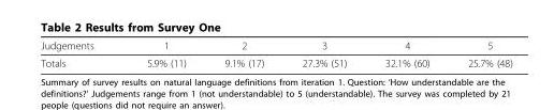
<table><thead><tr><td>Judgements</td><td>1</td><td>2</td><td>3</td><td>4</td><td>5</td></tr></thead><tbody><tr><td>Totals</td><td>5.9% (11)</td><td>9.1% (17)</td><td>27.3% (51)</td><td>32.1% (60)</td><td>25.7% (48)</td></tr></tbody></table>